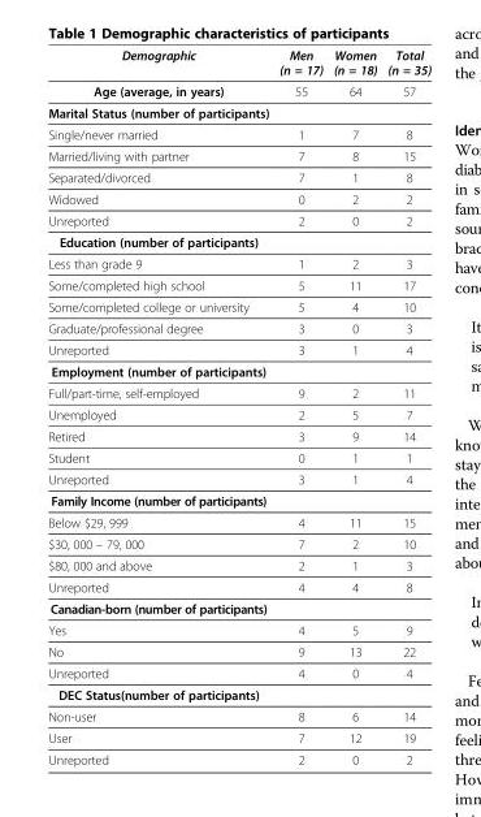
<table><thead><tr><td>Demographic</td><td>Men (n = 17)</td><td>Women (n = 18)</td><td>Total (n = 35)</td></tr></thead><tbody><tr><td>Age (average, in years)</td><td>55</td><td>64</td><td>57</td></tr><tr><td colspan="4">Marital Status (number of participants)</td></tr><tr><td>Single/never married</td><td>1</td><td>7</td><td>8</td></tr><tr><td>Married/living with partner</td><td>7</td><td>8</td><td>15</td></tr><tr><td>Separated/divorced</td><td>7</td><td>1</td><td>8</td></tr><tr><td>Widowed</td><td>0</td><td>2</td><td>2</td></tr><tr><td>Unreported</td><td>2</td><td>0</td><td>2</td></tr><tr><td colspan="4">Education (number of participants)</td></tr><tr><td>Less than grade 9</td><td>1</td><td>2</td><td>3</td></tr><tr><td>Some/completed high school</td><td>5</td><td>11</td><td>17</td></tr><tr><td>Some/completed college or university</td><td>5</td><td>4</td><td>10</td></tr><tr><td>Graduate/professional degree</td><td>3</td><td>0</td><td>3</td></tr><tr><td>Unreported</td><td>3</td><td>1</td><td>4</td></tr><tr><td colspan="4">Employment (number of participants)</td></tr><tr><td>Full/part-time, self-employed</td><td>9</td><td>2</td><td>11</td></tr><tr><td>Unemployed</td><td>2</td><td>5</td><td>7</td></tr><tr><td>Retired</td><td>3</td><td>9</td><td>14</td></tr><tr><td>Student</td><td>0</td><td>1</td><td>1</td></tr><tr><td>Unreported</td><td>3</td><td>1</td><td>4</td></tr><tr><td colspan="4">Family Income (number of participants)</td></tr><tr><td>Below $29, 999</td><td>4</td><td>11</td><td>15</td></tr><tr><td>$30, 000 – 79, 000</td><td>7</td><td>2</td><td>10</td></tr><tr><td>$80, 000 and above</td><td>2</td><td>1</td><td>3</td></tr><tr><td>Unreported</td><td>4</td><td>4</td><td>8</td></tr><tr><td colspan="4">Canadian-born (number of participants)</td></tr><tr><td>Yes</td><td>4</td><td>5</td><td>9</td></tr><tr><td>No</td><td>9</td><td>13</td><td>22</td></tr><tr><td>Unreported</td><td>4</td><td>0</td><td>4</td></tr><tr><td colspan="4">DEC Status(number of participants)</td></tr><tr><td>Non-user</td><td>8</td><td>6</td><td>14</td></tr><tr><td>User</td><td>7</td><td>12</td><td>19</td></tr><tr><td>Unreported</td><td>2</td><td>0</td><td>2</td></tr></tbody></table>